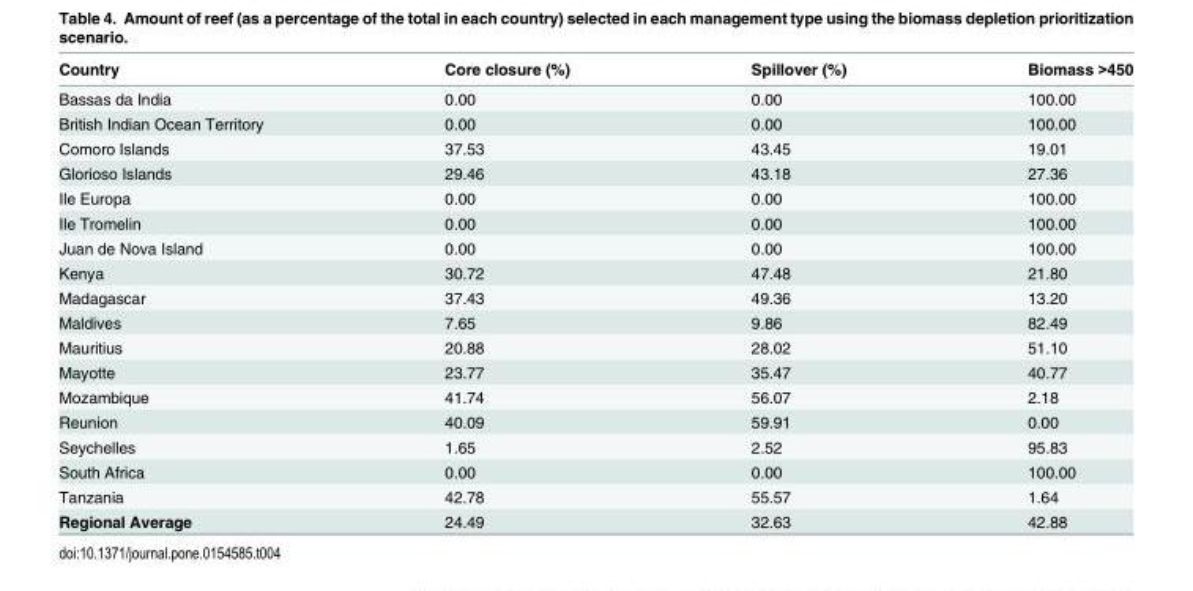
<table><thead><tr><td>Country</td><td>Core closure (%)</td><td>Spillover (%)</td><td>Biomass &gt;450</td></tr></thead><tbody><tr><td>Bassas da India</td><td>0.00</td><td>0.00</td><td>100.00</td></tr><tr><td>British Indian Ocean Territory</td><td>0.00</td><td>0.00</td><td>100.00</td></tr><tr><td>Comoro Islands</td><td>37.53</td><td>43.45</td><td>19.01</td></tr><tr><td>Glorioso Islands</td><td>29.46</td><td>43.18</td><td>27.36</td></tr><tr><td>Ile Europa</td><td>0.00</td><td>0.00</td><td>100.00</td></tr><tr><td>Ile Tromelin</td><td>0.00</td><td>0.00</td><td>100.00</td></tr><tr><td>Juan de Nova Island</td><td>0.00</td><td>0.00</td><td>100.00</td></tr><tr><td>Kenya</td><td>30.72</td><td>47.48</td><td>21.80</td></tr><tr><td>Madagascar</td><td>37.43</td><td>49.36</td><td>13.20</td></tr><tr><td>Maldives</td><td>7.65</td><td>9.86</td><td>82.49</td></tr><tr><td>Mauritius</td><td>20.88</td><td>28.02</td><td>51.10</td></tr><tr><td>Mayotte</td><td>23.77</td><td>35.47</td><td>40.77</td></tr><tr><td>Mozambique</td><td>41.74</td><td>56.07</td><td>2.18</td></tr><tr><td>Reunion</td><td>40.09</td><td>59.91</td><td>0.00</td></tr><tr><td>Seychelles</td><td>1.65</td><td>2.52</td><td>95.83</td></tr><tr><td>South Africa</td><td>0.00</td><td>0.00</td><td>100.00</td></tr><tr><td>Tanzania</td><td>42.78</td><td>55.57</td><td>1.64</td></tr><tr><td>Regional Average</td><td>24.49</td><td>32.63</td><td>42.88</td></tr></tbody></table>